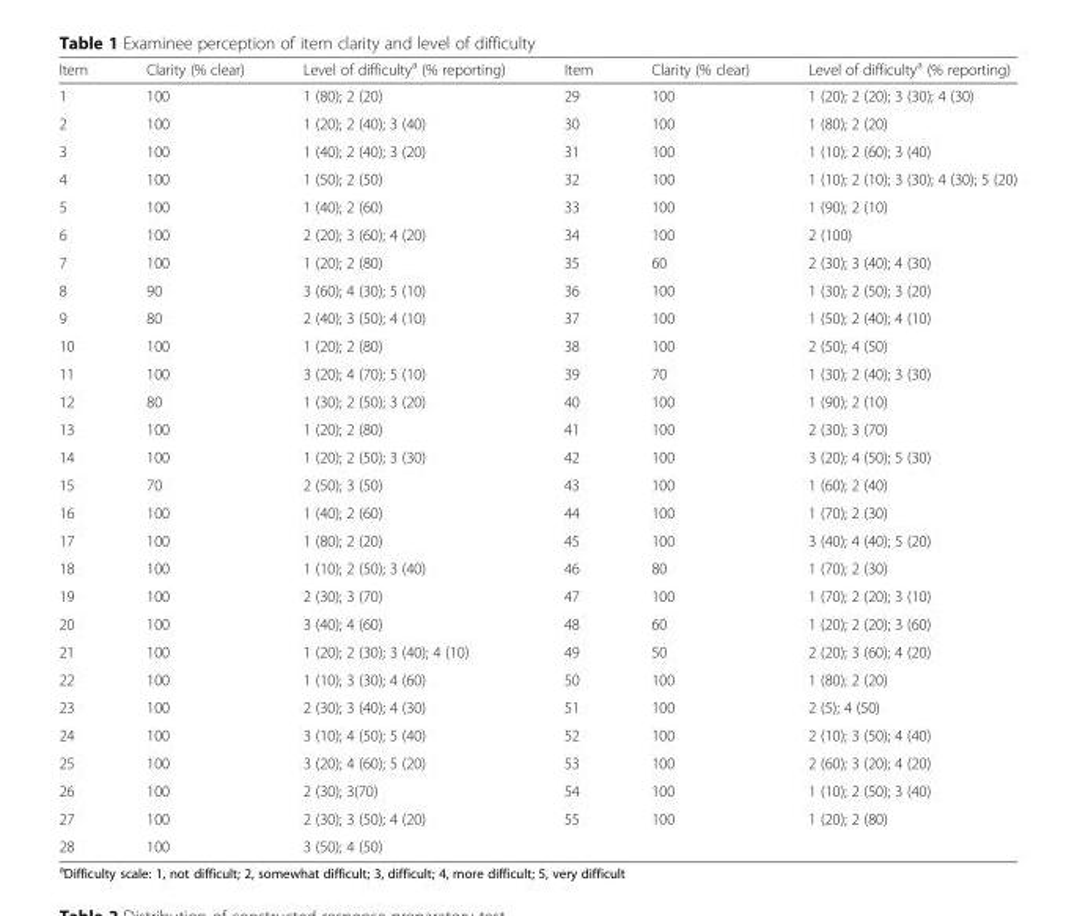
<table><thead><tr><td>Item</td><td>Clarity (% clear)</td><td>Level of difficulty<sup>a</sup> (% reporting)</td><td>Item</td><td>Clarity (% clear)</td><td>Level of difficulty<sup>a</sup> (% reporting)</td></tr></thead><tbody><tr><td>1</td><td>100</td><td>1 (80); 2 (20)</td><td>29</td><td>100</td><td>1 (20); 2 (20); 3 (30); 4 (30)</td></tr><tr><td>2</td><td>100</td><td>1 (20); 2 (40); 3 (40)</td><td>30</td><td>100</td><td>1 (80); 2 (20)</td></tr><tr><td>3</td><td>100</td><td>1 (40); 2 (40); 3 (20)</td><td>31</td><td>100</td><td>1 (10); 2 (60); 3 (40)</td></tr><tr><td>4</td><td>100</td><td>1 (50); 2 (50)</td><td>32</td><td>100</td><td>1 (10); 2 (10); 3 (30); 4 (30); 5 (20)</td></tr><tr><td>5</td><td>100</td><td>1 (40); 2 (60)</td><td>33</td><td>100</td><td>1 (90); 2 (10)</td></tr><tr><td>6</td><td>100</td><td>2 (20); 3 (60); 4 (20)</td><td>34</td><td>100</td><td>2 (100)</td></tr><tr><td>7</td><td>100</td><td>1 (20); 2 (80)</td><td>35</td><td>60</td><td>2 (30); 3 (40); 4 (30)</td></tr><tr><td>8</td><td>90</td><td>3 (60); 4 (30); 5 (10)</td><td>36</td><td>100</td><td>1 (30); 2 (50); 3 (20)</td></tr><tr><td>9</td><td>80</td><td>2 (40); 3 (50); 4 (10)</td><td>37</td><td>100</td><td>1 (50); 2 (40); 4 (10)</td></tr><tr><td>10</td><td>100</td><td>1 (20); 2 (80)</td><td>38</td><td>100</td><td>2 (50); 4 (50)</td></tr><tr><td>11</td><td>100</td><td>3 (20); 4 (70); 5 (10)</td><td>39</td><td>70</td><td>1 (30); 2 (40); 3 (30)</td></tr><tr><td>12</td><td>80</td><td>1 (30); 2 (50); 3 (20)</td><td>40</td><td>100</td><td>1 (90); 2 (10)</td></tr><tr><td>13</td><td>100</td><td>1 (20); 2 (80)</td><td>41</td><td>100</td><td>2 (30); 3 (70)</td></tr><tr><td>14</td><td>100</td><td>1 (20); 2 (50); 3 (30)</td><td>42</td><td>100</td><td>3 (20); 4 (50); 5 (30)</td></tr><tr><td>15</td><td>70</td><td>2 (50); 3 (50)</td><td>43</td><td>100</td><td>1 (60); 2 (40)</td></tr><tr><td>16</td><td>100</td><td>1 (40); 2 (60)</td><td>44</td><td>100</td><td>1 (70); 2 (30)</td></tr><tr><td>17</td><td>100</td><td>1 (80); 2 (20)</td><td>45</td><td>100</td><td>3 (40); 4 (40); 5 (20)</td></tr><tr><td>18</td><td>100</td><td>1 (10); 2 (50); 3 (40)</td><td>46</td><td>80</td><td>1 (70); 2 (30)</td></tr><tr><td>19</td><td>100</td><td>2 (30); 3 (70)</td><td>47</td><td>100</td><td>1 (70); 2 (20); 3 (10)</td></tr><tr><td>20</td><td>100</td><td>3 (40); 4 (60)</td><td>48</td><td>60</td><td>1 (20); 2 (20); 3 (60)</td></tr><tr><td>21</td><td>100</td><td>1 (20); 2 (30); 3 (40); 4 (10)</td><td>49</td><td>50</td><td>2 (20); 3 (60); 4 (20)</td></tr><tr><td>22</td><td>100</td><td>1 (10); 3 (30); 4 (60)</td><td>50</td><td>100</td><td>1 (80); 2 (20)</td></tr><tr><td>23</td><td>100</td><td>2 (30); 3 (40); 4 (30)</td><td>51</td><td>100</td><td>2 (5); 4 (50)</td></tr><tr><td>24</td><td>100</td><td>3 (10); 4 (50); 5 (40)</td><td>52</td><td>100</td><td>2 (10); 3 (50); 4 (40)</td></tr><tr><td>25</td><td>100</td><td>3 (20); 4 (60); 5 (20)</td><td>53</td><td>100</td><td>2 (60); 3 (20); 4 (20)</td></tr><tr><td>26</td><td>100</td><td>2 (30); 3(70)</td><td>54</td><td>100</td><td>1 (10); 2 (50); 3 (40)</td></tr><tr><td>27</td><td>100</td><td>2 (30); 3 (50); 4 (20)</td><td>55</td><td>100</td><td>1 (20); 2 (80)</td></tr><tr><td>28</td><td>100</td><td>3 (50); 4 (50)</td><td></td><td></td><td></td></tr></tbody></table>